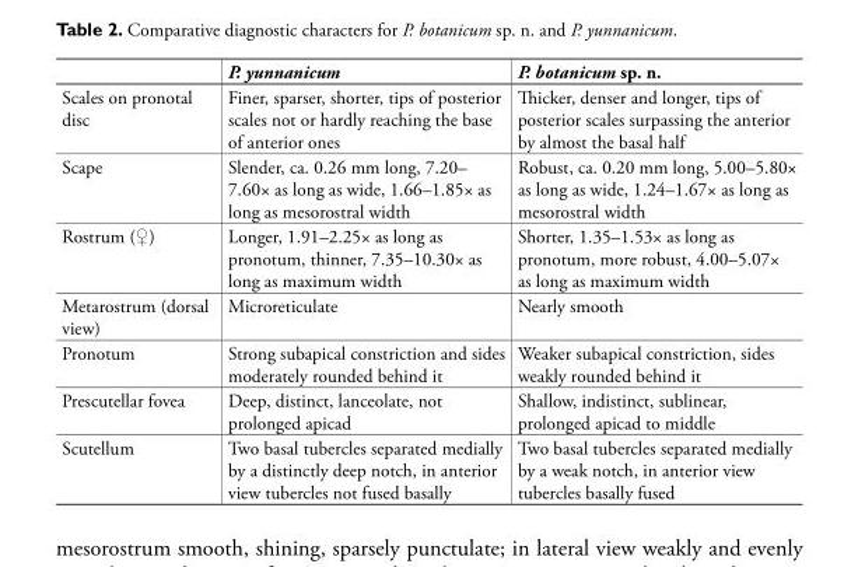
<table><thead><tr><td></td><td>P. yunnanicum</td><td>P. botanicum sp. n.</td></tr></thead><tbody><tr><td>Scales on pronotal disc</td><td>Finer, sparser, shorter, tips of posterior scales not or hardly reaching the base of anterior ones</td><td>Thicker, denser and longer, tips of posterior scales surpassing the anterior by almost the basal half</td></tr><tr><td>Scape</td><td>Slender, ca. 0.26 mm long, 7.20– 7.60× as long as wide, 1.66–1.85× as long as mesorostral width</td><td>Robust, ca. 0.20 mm long, 5.00–5.80× as long as wide, 1.24–1.67× as long as mesorostral width</td></tr><tr><td>Rostrum (♀)</td><td>Longer, 1.91–2.25× as long as pronotum, thinner, 7.35–10.30× as long as maximum width</td><td>Shorter, 1.35–1.53× as long as pronotum, more robust, 4.00–5.07× as long as maximum width</td></tr><tr><td>Metarostrum (dorsal view)</td><td>Microreticulate</td><td>Nearly smooth</td></tr><tr><td>Pronotum</td><td>Strong subapical constriction and sides moderately rounded behind it</td><td>Weaker subapical constriction, sides weakly rounded behind it</td></tr><tr><td>Prescutellar fovea</td><td>Deep, distinct, lanceolate, not prolonged apicad</td><td>Shallow, indistinct, sublinear, prolonged apicad to middle</td></tr><tr><td>Scutellum</td><td>Two basal tubercles separated medially by a distinctly deep notch, in anterior view tubercles not fused basally</td><td>Two basal tubercles separated medially by a weak notch, in anterior view tubercles basally fused</td></tr></tbody></table>